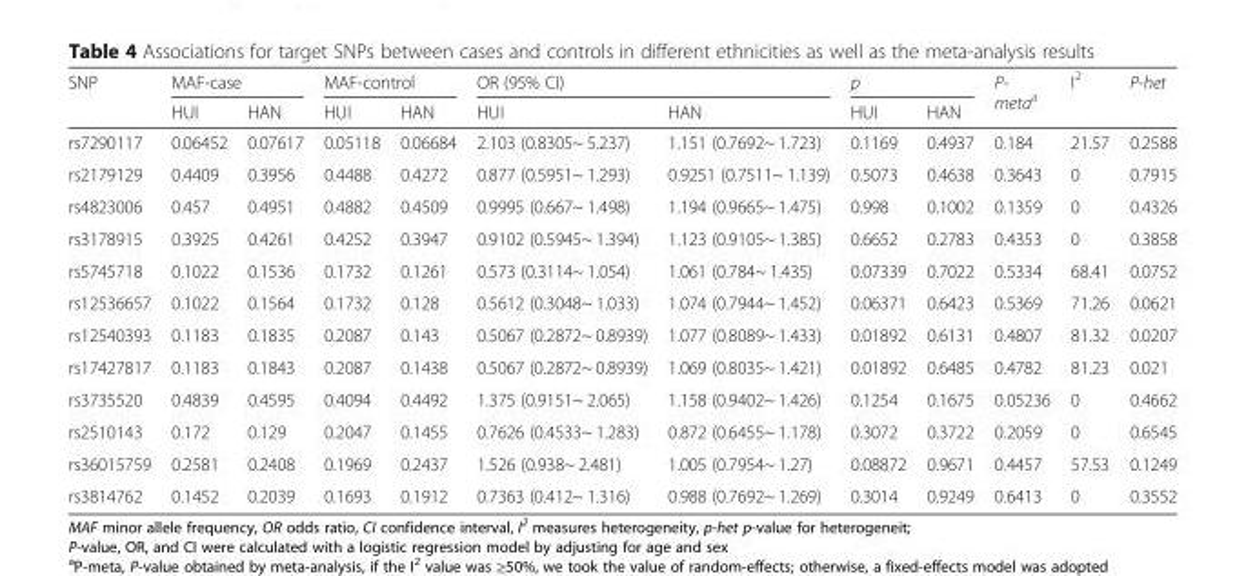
<table><thead><tr><td rowspan="2">SNP</td><td colspan="2">MAF-case</td><td colspan="2">MAF-control</td><td colspan="2">OR (95% CI)</td><td colspan="2">p</td><td rowspan="2">P- meta<sup>a</sup></td><td rowspan="2">I<sup>2</sup></td><td rowspan="2">P-het</td></tr><tr><td>HUI</td><td>HAN</td><td>HUI</td><td>HAN</td><td>HUI</td><td>HAN</td><td>HUI</td><td>HAN</td></tr></thead><tbody><tr><td>rs7290117</td><td>0.06452</td><td>0.07617</td><td>0.05118</td><td>0.06684</td><td>2.103 (0.8305~ 5.237)</td><td>1.151 (0.7692~ 1.723)</td><td>0.1169</td><td>0.4937</td><td>0.184</td><td>21.57</td><td>0.2588</td></tr><tr><td>rs2179129</td><td>0.4409</td><td>0.3956</td><td>0.4488</td><td>0.4272</td><td>0.877 (0.5951~ 1.293)</td><td>0.9251 (0.7511~ 1.139)</td><td>0.5073</td><td>0.4638</td><td>0.3643</td><td>0</td><td>0.7915</td></tr><tr><td>rs4823006</td><td>0.457</td><td>0.4951</td><td>0.4882</td><td>0.4509</td><td>0.9995 (0.667~ 1.498)</td><td>1.194 (0.9665~ 1.475)</td><td>0.998</td><td>0.1002</td><td>0.1359</td><td>0</td><td>0.4326</td></tr><tr><td>rs3178915</td><td>0.3925</td><td>0.4261</td><td>0.4252</td><td>0.3947</td><td>0.9102 (0.5945~ 1.394)</td><td>1.123 (0.9105~ 1.385)</td><td>0.6652</td><td>0.2783</td><td>0.4353</td><td>0</td><td>0.3858</td></tr><tr><td>rs5745718</td><td>0.1022</td><td>0.1536</td><td>0.1732</td><td>0.1261</td><td>0.573 (0.3114~ 1.054)</td><td>1.061 (0.784~ 1.435)</td><td>0.07339</td><td>0.7022</td><td>0.5334</td><td>68.41</td><td>0.0752</td></tr><tr><td>rs12536657</td><td>0.1022</td><td>0.1564</td><td>0.1732</td><td>0.128</td><td>0.5612 (0.3048~ 1.033)</td><td>1.074 (0.7944~ 1.452)</td><td>0.06371</td><td>0.6423</td><td>0.5369</td><td>71.26</td><td>0.0621</td></tr><tr><td>rs12540393</td><td>0.1183</td><td>0.1835</td><td>0.2087</td><td>0.143</td><td>0.5067 (0.2872~ 0.8939)</td><td>1.077 (0.8089~ 1.433)</td><td>0.01892</td><td>0.6131</td><td>0.4807</td><td>81.32</td><td>0.0207</td></tr><tr><td>rs17427817</td><td>0.1183</td><td>0.1843</td><td>0.2087</td><td>0.1438</td><td>0.5067 (0.2872~ 0.8939)</td><td>1.069 (0.8035~ 1.421)</td><td>0.01892</td><td>0.6485</td><td>0.4782</td><td>81.23</td><td>0.021</td></tr><tr><td>rs3735520</td><td>0.4839</td><td>0.4595</td><td>0.4094</td><td>0.4492</td><td>1.375 (0.9151~ 2.065)</td><td>1.158 (0.9402~ 1.426)</td><td>0.1254</td><td>0.1675</td><td>0.05236</td><td>0</td><td>0.4662</td></tr><tr><td>rs2510143</td><td>0.172</td><td>0.129</td><td>0.2047</td><td>0.1455</td><td>0.7626 (0.4533~ 1.283)</td><td>0.872 (0.6455~ 1.178)</td><td>0.3072</td><td>0.3722</td><td>0.2059</td><td>0</td><td>0.6545</td></tr><tr><td>rs36015759</td><td>0.2581</td><td>0.2408</td><td>0.1969</td><td>0.2437</td><td>1.526 (0.938~ 2.481)</td><td>1.005 (0.7954~ 1.27)</td><td>0.08872</td><td>0.9671</td><td>0.4457</td><td>57.53</td><td>0.1249</td></tr><tr><td>rs3814762</td><td>0.1452</td><td>0.2039</td><td>0.1693</td><td>0.1912</td><td>0.7363 (0.412~ 1.316)</td><td>0.988 (0.7692~ 1.269)</td><td>0.3014</td><td>0.9249</td><td>0.6413</td><td>0</td><td>0.3552</td></tr></tbody></table>